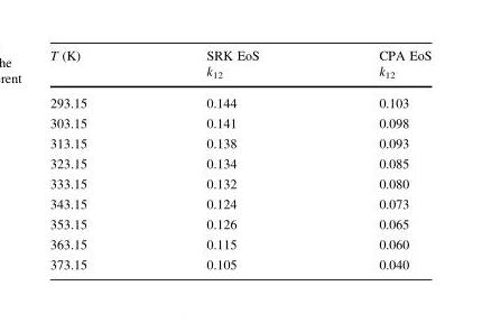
<table><thead><tr><td rowspan="2">T (K)</td><td rowspan="2">SRK EoS k<sub>12</sub></td><td rowspan="2">CPA EoS k<sub>12</sub></td></tr><tr></tr></thead><tbody><tr><td>293.15</td><td>0.144</td><td>0.103</td></tr><tr><td>303.15</td><td>0.141</td><td>0.098</td></tr><tr><td>313.15</td><td>0.138</td><td>0.093</td></tr><tr><td>323.15</td><td>0.134</td><td>0.085</td></tr><tr><td>333.15</td><td>0.132</td><td>0.080</td></tr><tr><td>343.15</td><td>0.124</td><td>0.073</td></tr><tr><td>353.15</td><td>0.126</td><td>0.065</td></tr><tr><td>363.15</td><td>0.115</td><td>0.060</td></tr><tr><td>373.15</td><td>0.105</td><td>0.040</td></tr></tbody></table>